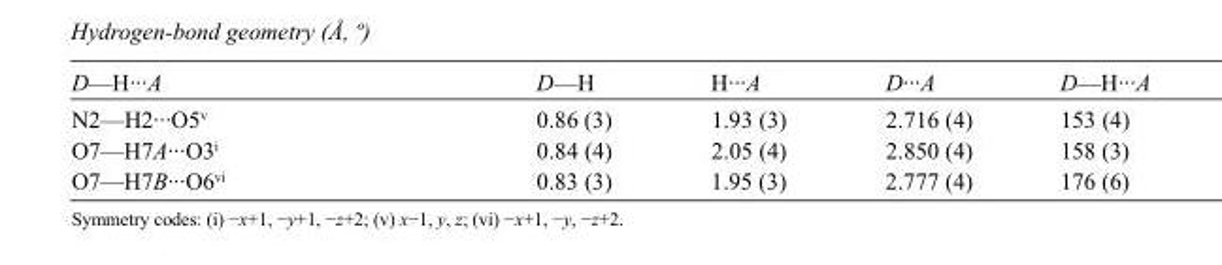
<table><tbody><tr><td>D—H···A</td><td>D—H</td><td>H···A</td><td>D···A</td><td>D—H···A</td></tr><tr><td>N2—H2···O5<sup>v</sup></td><td>0.86 (3)</td><td>1.93 (3)</td><td>2.716 (4)</td><td>153 (4)</td></tr><tr><td>O7—H7A···O3<sup>i</sup></td><td>0.84 (4)</td><td>2.05 (4)</td><td>2.850 (4)</td><td>158 (3)</td></tr><tr><td>O7—H7B···O6<sup>vi</sup></td><td>0.83 (3)</td><td>1.95 (3)</td><td>2.777 (4)</td><td>176 (6)</td></tr></tbody></table>